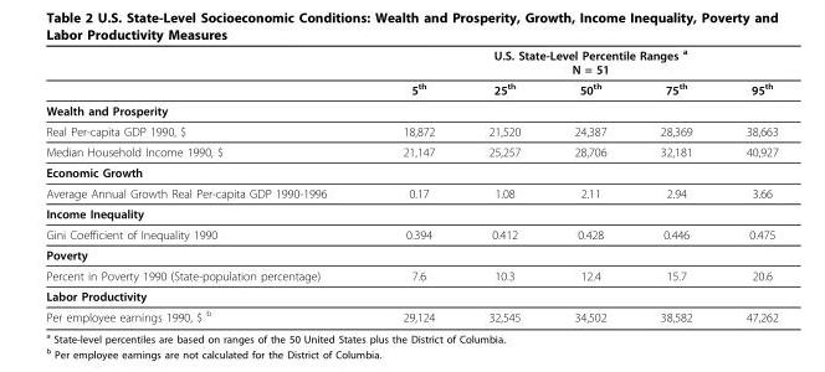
<table><thead><tr><td rowspan="2"></td><td colspan="5">U.S. State-Level Percentile Ranges <sup>a</sup> N = 51</td></tr><tr><td>5<sup>th</sup></td><td>25<sup>th</sup></td><td>50<sup>th</sup></td><td>75<sup>th</sup></td><td>95<sup>th</sup></td></tr></thead><tbody><tr><td colspan="6">Wealth and Prosperity</td></tr><tr><td>Real Per-capita GDP 1990, $</td><td>18,872</td><td>21,520</td><td>24,387</td><td>28,369</td><td>38,663</td></tr><tr><td>Median Household Income 1990, $</td><td>21,147</td><td>25,257</td><td>28,706</td><td>32,181</td><td>40,927</td></tr><tr><td colspan="6">Economic Growth</td></tr><tr><td>Average Annual Growth Real Per-capita GDP 1990-1996</td><td>0.17</td><td>1.08</td><td>2.11</td><td>2.94</td><td>3.66</td></tr><tr><td colspan="6">Income Inequality</td></tr><tr><td>Gini Coefficient of Inequality 1990</td><td>0.394</td><td>0.412</td><td>0.428</td><td>0.446</td><td>0.475</td></tr><tr><td colspan="6">Poverty</td></tr><tr><td>Percent in Poverty 1990 (State-population percentage)</td><td>7.6</td><td>10.3</td><td>12.4</td><td>15.7</td><td>20.6</td></tr><tr><td colspan="6">Labor Productivity</td></tr><tr><td>Per employee earnings 1990, $ <sup>b</sup></td><td>29,124</td><td>32,545</td><td>34,502</td><td>38,582</td><td>47,262</td></tr></tbody></table>